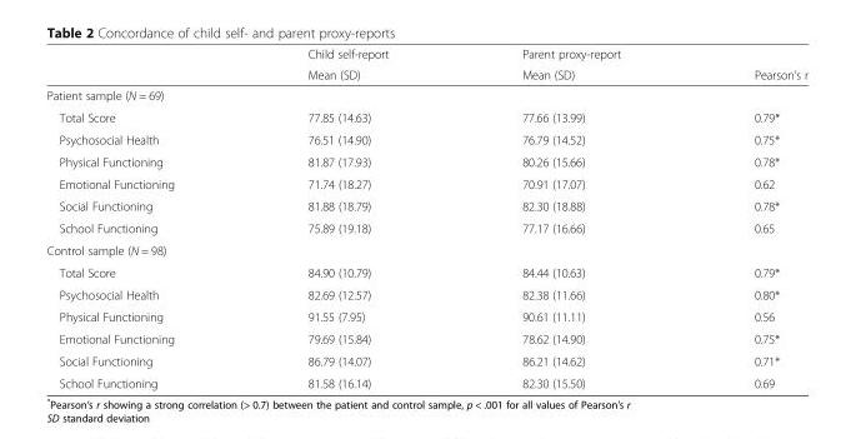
<table><thead><tr><td rowspan="2"></td><td rowspan="2">Child self-report Mean (SD)</td><td rowspan="2">Parent proxy-report Mean (SD)</td><td rowspan="2">Pearson’s r</td></tr><tr></tr></thead><tbody><tr><td colspan="4">Patient sample (N = 69)</td></tr><tr><td>Total Score</td><td>77.85 (14.63)</td><td>77.66 (13.99)</td><td>0.79*</td></tr><tr><td>Psychosocial Health</td><td>76.51 (14.90)</td><td>76.79 (14.52)</td><td>0.75*</td></tr><tr><td>Physical Functioning</td><td>81.87 (17.93)</td><td>80.26 (15.66)</td><td>0.78*</td></tr><tr><td>Emotional Functioning</td><td>71.74 (18.27)</td><td>70.91 (17.07)</td><td>0.62</td></tr><tr><td>Social Functioning</td><td>81.88 (18.79)</td><td>82.30 (18.88)</td><td>0.78*</td></tr><tr><td>School Functioning</td><td>75.89 (19.18)</td><td>77.17 (16.66)</td><td>0.65</td></tr><tr><td colspan="4">Control sample (N = 98)</td></tr><tr><td>Total Score</td><td>84.90 (10.79)</td><td>84.44 (10.63)</td><td>0.79*</td></tr><tr><td>Psychosocial Health</td><td>82.69 (12.57)</td><td>82.38 (11.66)</td><td>0.80*</td></tr><tr><td>Physical Functioning</td><td>91.55 (7.95)</td><td>90.61 (11.11)</td><td>0.56</td></tr><tr><td>Emotional Functioning</td><td>79.69 (15.84)</td><td>78.62 (14.90)</td><td>0.75*</td></tr><tr><td>Social Functioning</td><td>86.79 (14.07)</td><td>86.21 (14.62)</td><td>0.71*</td></tr><tr><td>School Functioning</td><td>81.58 (16.14)</td><td>82.30 (15.50)</td><td>0.69</td></tr></tbody></table>